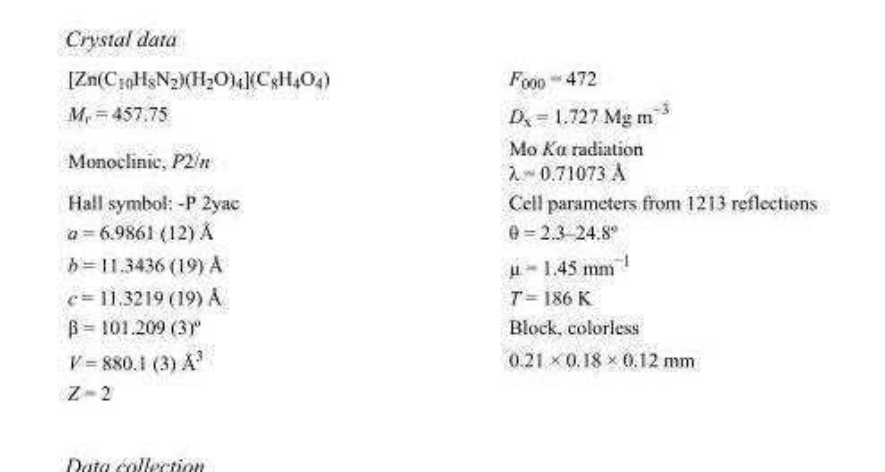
<table><tbody><tr><td>[Zn(C<sub>10</sub>H<sub>8</sub>N<sub>2</sub>)(H<sub>2</sub>O)<sub>4</sub>](C<sub>8</sub>H<sub>4</sub>O<sub>4</sub>)</td><td>F000 = 472</td></tr><tr><td>M<sub>r</sub> = 457.75</td><td>D<sub>x</sub> = 1.727 Mg m<sup>−3</sup></td></tr><tr><td>Monoclinic, P2/n</td><td>Mo Kα radiation λ = 0.71073 Å</td></tr><tr><td>Hall symbol: -P 2yac</td><td>Cell parameters from 1213 reflections</td></tr><tr><td>a = 6.9861 (12) Å</td><td>θ = 2.3–24.8º</td></tr><tr><td>b = 11.3436 (19) Å</td><td>µ = 1.45 mm<sup>−1</sup></td></tr><tr><td>c = 11.3219 (19) Å</td><td>T = 186 K</td></tr><tr><td>β = 101.209 (3)º</td><td>Block, colorless</td></tr><tr><td>V = 880.1 (3) Å<sup>3</sup></td><td>0.21 × 0.18 × 0.12 mm</td></tr><tr><td>Z = 2</td><td></td></tr></tbody></table>